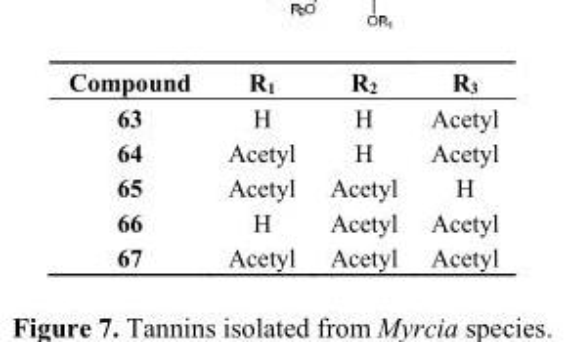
<table><thead><tr><td>Compound</td><td>R<sub>1</sub></td><td>R<sub>2</sub></td><td>R<sub>3</sub></td></tr></thead><tbody><tr><td>63</td><td>H</td><td>H</td><td>Acetyl</td></tr><tr><td>64</td><td>Acetyl</td><td>H</td><td>Acetyl</td></tr><tr><td>65</td><td>Acetyl</td><td>Acetyl</td><td>H</td></tr><tr><td>66</td><td>H</td><td>Acetyl</td><td>Acetyl</td></tr><tr><td>67</td><td>Acetyl</td><td>Acetyl</td><td>Acetyl</td></tr></tbody></table>